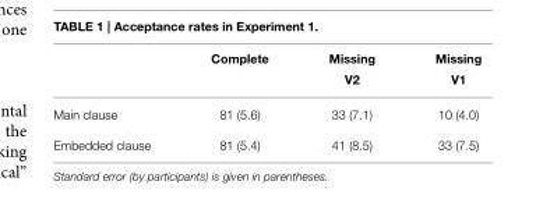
<table><thead><tr><td rowspan="2"></td><td rowspan="2">Complete</td><td rowspan="2">Missing V2</td><td rowspan="2">Missing V1</td></tr><tr></tr></thead><tbody><tr><td>Main clause</td><td>81 (5.6)</td><td>33 (7.1)</td><td>10 (4.0)</td></tr><tr><td>Embedded clause</td><td>81 (5.4)</td><td>41 (8.5)</td><td>33 (7.5)</td></tr></tbody></table>